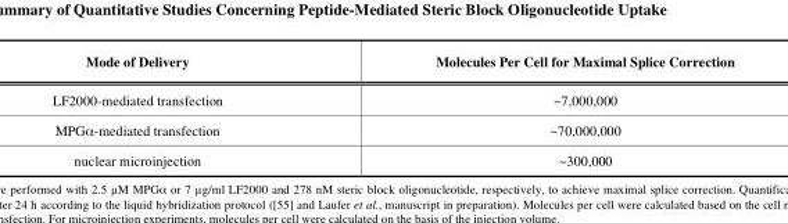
<table><thead><tr><td>Mode of Delivery</td><td>Molecules Per Cell for Maximal Splice Correction</td></tr></thead><tbody><tr><td>LF2000-mediated transfection</td><td>~7,000,000</td></tr><tr><td>MPGα-mediated transfection</td><td>~70,000,000</td></tr><tr><td>nuclear microinjection</td><td>~300,000</td></tr></tbody></table>